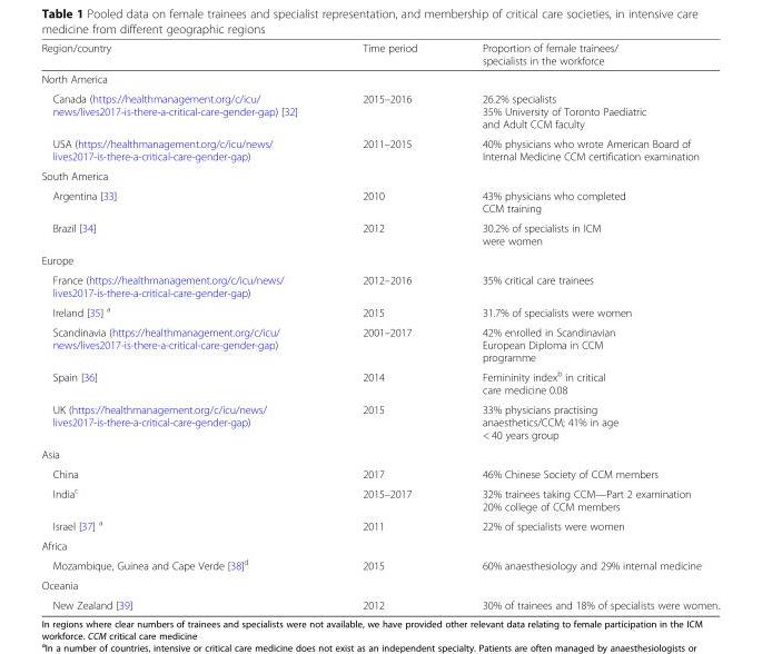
<table><thead><tr><td>Region/country</td><td>Time period</td><td>Proportion of female trainees/ specialists in the workforce</td></tr></thead><tbody><tr><td colspan="3">North America</td></tr><tr><td>Canada (https://healthmanagement.org/c/icu/ news/lives2017-is-there-a-critical-care-gender-gap) [32]</td><td>2015–2016</td><td>26.2% specialists 35% University of Toronto Paediatric and Adult CCM faculty</td></tr><tr><td>USA (https://healthmanagement.org/c/icu/news/ lives2017-is-there-a-critical-care-gender-gap)</td><td>2011–2015</td><td>40% physicians who wrote American Board of Internal Medicine CCM certification examination</td></tr><tr><td colspan="3">South America</td></tr><tr><td>Argentina [33]</td><td>2010</td><td>43% physicians who completed CCM training</td></tr><tr><td>Brazil [34]</td><td>2012</td><td>30.2% of specialists in ICM were women</td></tr><tr><td colspan="3">Europe</td></tr><tr><td>France (https://healthmanagement.org/c/icu/news/ lives2017-is-there-a-critical-care-gender-gap)</td><td>2012–2016</td><td>35% critical care trainees</td></tr><tr><td>Ireland [35] <sup>a</sup></td><td>2015</td><td>31.7% of specialists were women</td></tr><tr><td>Scandinavia (https://healthmanagement.org/c/icu/ news/lives2017-is-there-a-critical-care-gender-gap)</td><td>2001–2017</td><td>42% enrolled in Scandinavian European Diploma in CCM programme</td></tr><tr><td>Spain [36]</td><td>2014</td><td>Femininity index<sup>b</sup> in critical care medicine 0.08</td></tr><tr><td>UK (https://healthmanagement.org/c/icu/news/ lives2017-is-there-a-critical-care-gender-gap)</td><td>2015</td><td>33% physicians practising anaesthetics/CCM; 41% in age &lt; 40 years group</td></tr><tr><td colspan="3">Asia</td></tr><tr><td>China</td><td>2017</td><td>46% Chinese Society of CCM members</td></tr><tr><td>India<sup>c</sup></td><td>2015–2017</td><td>32% trainees taking CCM—Part 2 examination 20% college of CCM members</td></tr><tr><td>Israel [37] <sup>a</sup></td><td>2011</td><td>22% of specialists were women</td></tr><tr><td colspan="3">Africa</td></tr><tr><td>Mozambique, Guinea and Cape Verde [38]<sup>d</sup></td><td>2015</td><td>60% anaesthesiology and 29% internal medicine</td></tr><tr><td colspan="3">Oceania</td></tr><tr><td>New Zealand [39]</td><td>2012</td><td>30% of trainees and 18% of specialists were women.</td></tr></tbody></table>